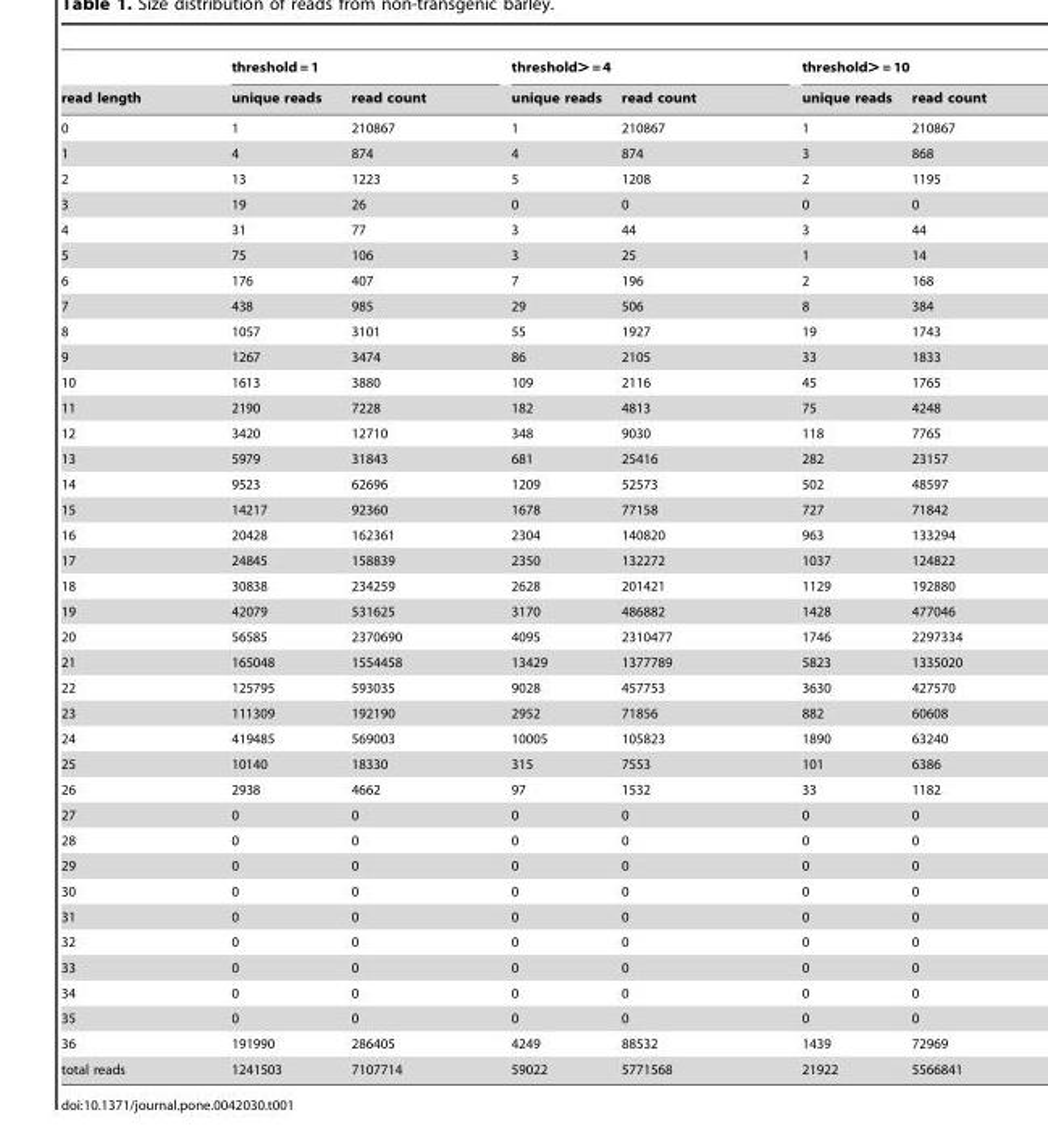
<table><thead><tr><td rowspan="2">read length</td><td colspan="2">threshold = 1</td><td colspan="2">threshold&gt; = 4</td><td colspan="2">threshold&gt; = 10</td></tr><tr><td>unique reads</td><td>read count</td><td>unique reads</td><td>read count</td><td>unique reads</td><td>read count</td></tr></thead><tbody><tr><td>0</td><td>1</td><td>210867</td><td>1</td><td>210867</td><td>1</td><td>210867</td></tr><tr><td>1</td><td>4</td><td>874</td><td>4</td><td>874</td><td>3</td><td>868</td></tr><tr><td>2</td><td>13</td><td>1223</td><td>5</td><td>1208</td><td>2</td><td>1195</td></tr><tr><td>3</td><td>19</td><td>26</td><td>0</td><td>0</td><td>0</td><td>0</td></tr><tr><td>4</td><td>31</td><td>77</td><td>3</td><td>44</td><td>3</td><td>44</td></tr><tr><td>5</td><td>75</td><td>106</td><td>3</td><td>25</td><td>1</td><td>14</td></tr><tr><td>6</td><td>176</td><td>407</td><td>7</td><td>196</td><td>2</td><td>168</td></tr><tr><td>7</td><td>438</td><td>985</td><td>29</td><td>506</td><td>8</td><td>384</td></tr><tr><td>8</td><td>1057</td><td>3101</td><td>55</td><td>1927</td><td>19</td><td>1743</td></tr><tr><td>9</td><td>1267</td><td>3474</td><td>86</td><td>2105</td><td>33</td><td>1833</td></tr><tr><td>10</td><td>1613</td><td>3880</td><td>109</td><td>2116</td><td>45</td><td>1765</td></tr><tr><td>11</td><td>2190</td><td>7228</td><td>182</td><td>4813</td><td>75</td><td>4248</td></tr><tr><td>12</td><td>3420</td><td>12710</td><td>348</td><td>9030</td><td>118</td><td>7765</td></tr><tr><td>13</td><td>5979</td><td>31843</td><td>681</td><td>25416</td><td>282</td><td>23157</td></tr><tr><td>14</td><td>9523</td><td>62696</td><td>1209</td><td>52573</td><td>502</td><td>48597</td></tr><tr><td>15</td><td>14217</td><td>92360</td><td>1678</td><td>77158</td><td>727</td><td>71842</td></tr><tr><td>16</td><td>20428</td><td>162361</td><td>2304</td><td>140820</td><td>963</td><td>133294</td></tr><tr><td>17</td><td>24845</td><td>158839</td><td>2350</td><td>132272</td><td>1037</td><td>124822</td></tr><tr><td>18</td><td>30838</td><td>234259</td><td>2628</td><td>201421</td><td>1129</td><td>192880</td></tr><tr><td>19</td><td>42079</td><td>531625</td><td>3170</td><td>486882</td><td>1428</td><td>477046</td></tr><tr><td>20</td><td>56585</td><td>2370690</td><td>4095</td><td>2310477</td><td>1746</td><td>2297334</td></tr><tr><td>21</td><td>165048</td><td>1554458</td><td>13429</td><td>1377789</td><td>5823</td><td>1335020</td></tr><tr><td>22</td><td>125795</td><td>593035</td><td>9028</td><td>457753</td><td>3630</td><td>427570</td></tr><tr><td>23</td><td>111309</td><td>192190</td><td>2952</td><td>71856</td><td>882</td><td>60608</td></tr><tr><td>24</td><td>419485</td><td>569003</td><td>10005</td><td>105823</td><td>1890</td><td>63240</td></tr><tr><td>25</td><td>10140</td><td>18330</td><td>315</td><td>7553</td><td>101</td><td>6386</td></tr><tr><td>26</td><td>2938</td><td>4662</td><td>97</td><td>1532</td><td>33</td><td>1182</td></tr><tr><td>27</td><td>0</td><td>0</td><td>0</td><td>0</td><td>0</td><td>0</td></tr><tr><td>28</td><td>0</td><td>0</td><td>0</td><td>0</td><td>0</td><td>0</td></tr><tr><td>29</td><td>0</td><td>0</td><td>0</td><td>0</td><td>0</td><td>0</td></tr><tr><td>30</td><td>0</td><td>0</td><td>0</td><td>0</td><td>0</td><td>0</td></tr><tr><td>31</td><td>0</td><td>0</td><td>0</td><td>0</td><td>0</td><td>0</td></tr><tr><td>32</td><td>0</td><td>0</td><td>0</td><td>0</td><td>0</td><td>0</td></tr><tr><td>33</td><td>0</td><td>0</td><td>0</td><td>0</td><td>0</td><td>0</td></tr><tr><td>34</td><td>0</td><td>0</td><td>0</td><td>0</td><td>0</td><td>0</td></tr><tr><td>35</td><td>0</td><td>0</td><td>0</td><td>0</td><td>0</td><td>0</td></tr><tr><td>36</td><td>191990</td><td>286405</td><td>4249</td><td>88532</td><td>1439</td><td>72969</td></tr><tr><td>total reads</td><td>1241503</td><td>7107714</td><td>59022</td><td>5771568</td><td>21922</td><td>5566841</td></tr></tbody></table>